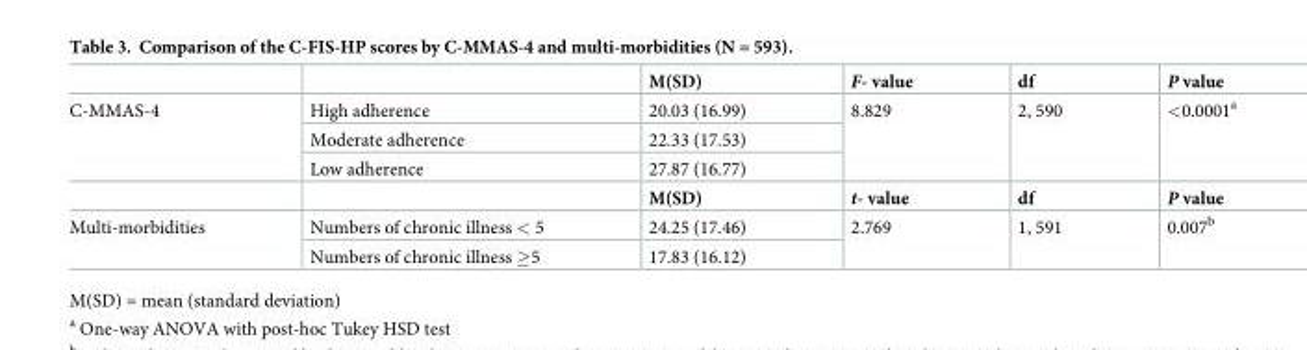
<table><thead><tr><td></td><td></td><td>M(SD)</td><td>F- value</td><td>df</td><td>P value</td></tr></thead><tbody><tr><td rowspan="4">C-MMAS-4</td><td>High adherence</td><td>20.03 (16.99)</td><td rowspan="3">8.829</td><td rowspan="3">2, 590</td><td rowspan="3">&lt;0.0001<sup>a</sup></td></tr><tr><td>Moderate adherence</td><td>22.33 (17.53)</td></tr><tr><td>Low adherence</td><td>27.87 (16.77)</td></tr><tr><td></td><td>M(SD)</td><td>t- value</td><td>df</td><td>P value</td></tr><tr><td rowspan="2">Multi-morbidities</td><td>Numbers of chronic illness &lt; 5</td><td>24.25 (17.46)</td><td rowspan="2">2.769</td><td rowspan="2">1, 591</td><td rowspan="2">0.007<sup>b</sup></td></tr><tr><td>Numbers of chronic illness ≥5</td><td>17.83 (16.12)</td></tr></tbody></table>